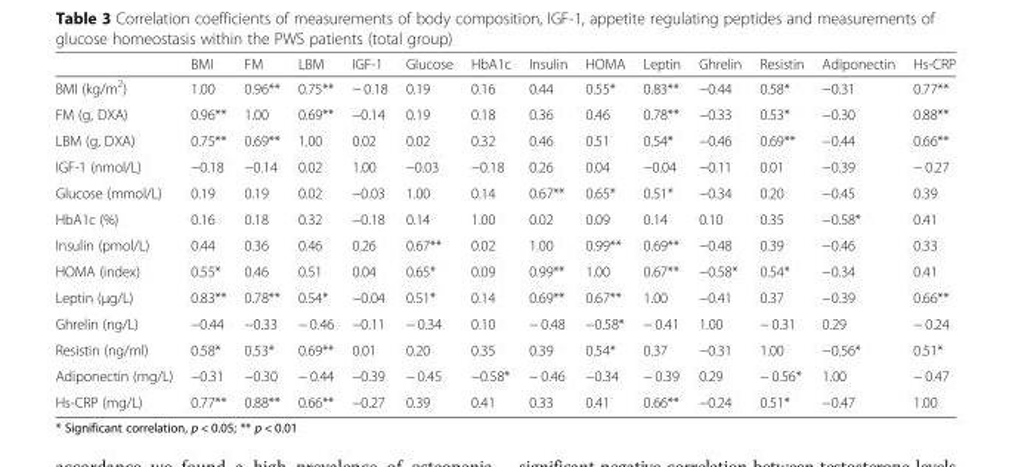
<table><thead><tr><td></td><td>BMI</td><td>FM</td><td>LBM</td><td>IGF-1</td><td>Glucose</td><td>HbA1c</td><td>Insulin</td><td>HOMA</td><td>Leptin</td><td>Ghrelin</td><td>Resistin</td><td>Adiponectin</td><td>Hs-CRP</td></tr></thead><tbody><tr><td>BMI (kg/m<sup>2</sup>)</td><td>1.00</td><td>0.96**</td><td>0.75**</td><td>− 0.18</td><td>0.19</td><td>0.16</td><td>0.44</td><td>0.55*</td><td>0.83**</td><td>−0.44</td><td>0.58*</td><td>−0.31</td><td>0.77**</td></tr><tr><td>FM (g, DXA)</td><td>0.96**</td><td>1.00</td><td>0.69**</td><td>−0.14</td><td>0.19</td><td>0.18</td><td>0.36</td><td>0.46</td><td>0.78**</td><td>−0.33</td><td>0.53*</td><td>−0.30</td><td>0.88**</td></tr><tr><td>LBM (g, DXA)</td><td>0.75**</td><td>0.69**</td><td>1.00</td><td>0.02</td><td>0.02</td><td>0.32</td><td>0.46</td><td>0.51</td><td>0.54*</td><td>−0.46</td><td>0.69**</td><td>−0.44</td><td>0.66**</td></tr><tr><td>IGF-1 (nmol/L)</td><td>−0.18</td><td>−0.14</td><td>0.02</td><td>1.00</td><td>−0.03</td><td>−0.18</td><td>0.26</td><td>0.04</td><td>−0.04</td><td>−0.11</td><td>0.01</td><td>−0.39</td><td>− 0.27</td></tr><tr><td>Glucose (mmol/L)</td><td>0.19</td><td>0.19</td><td>0.02</td><td>−0.03</td><td>1.00</td><td>0.14</td><td>0.67**</td><td>0.65*</td><td>0.51*</td><td>−0.34</td><td>0.20</td><td>−0.45</td><td>0.39</td></tr><tr><td>HbA1c (%)</td><td>0.16</td><td>0.18</td><td>0.32</td><td>−0.18</td><td>0.14</td><td>1.00</td><td>0.02</td><td>0.09</td><td>0.14</td><td>0.10</td><td>0.35</td><td>−0.58*</td><td>0.41</td></tr><tr><td>Insulin (pmol/L)</td><td>0.44</td><td>0.36</td><td>0.46</td><td>0.26</td><td>0.67**</td><td>0.02</td><td>1.00</td><td>0.99**</td><td>0.69**</td><td>−0.48</td><td>0.39</td><td>−0.46</td><td>0.33</td></tr><tr><td>HOMA (index)</td><td>0.55*</td><td>0.46</td><td>0.51</td><td>0.04</td><td>0.65*</td><td>0.09</td><td>0.99**</td><td>1.00</td><td>0.67**</td><td>−0.58*</td><td>0.54*</td><td>−0.34</td><td>0.41</td></tr><tr><td>Leptin (μg/L)</td><td>0.83**</td><td>0.78**</td><td>0.54*</td><td>−0.04</td><td>0.51*</td><td>0.14</td><td>0.69**</td><td>0.67**</td><td>1.00</td><td>−0.41</td><td>0.37</td><td>−0.39</td><td>0.66**</td></tr><tr><td>Ghrelin (ng/L)</td><td>−0.44</td><td>−0.33</td><td>− 0.46</td><td>−0.11</td><td>− 0.34</td><td>0.10</td><td>− 0.48</td><td>−0.58*</td><td>− 0.41</td><td>1.00</td><td>− 0.31</td><td>0.29</td><td>− 0.24</td></tr><tr><td>Resistin (ng/ml)</td><td>0.58*</td><td>0.53*</td><td>0.69**</td><td>0.01</td><td>0.20</td><td>0.35</td><td>0.39</td><td>0.54*</td><td>0.37</td><td>−0.31</td><td>1.00</td><td>−0.56*</td><td>0.51*</td></tr><tr><td>Adiponectin (mg/L)</td><td>−0.31</td><td>−0.30</td><td>− 0.44</td><td>−0.39</td><td>− 0.45</td><td>−0.58*</td><td>− 0.46</td><td>−0.34</td><td>− 0.39</td><td>0.29</td><td>− 0.56*</td><td>1.00</td><td>− 0.47</td></tr><tr><td>Hs-CRP (mg/L)</td><td>0.77**</td><td>0.88**</td><td>0.66**</td><td>−0.27</td><td>0.39</td><td>0.41</td><td>0.33</td><td>0.41</td><td>0.66**</td><td>−0.24</td><td>0.51*</td><td>−0.47</td><td>1.00</td></tr></tbody></table>